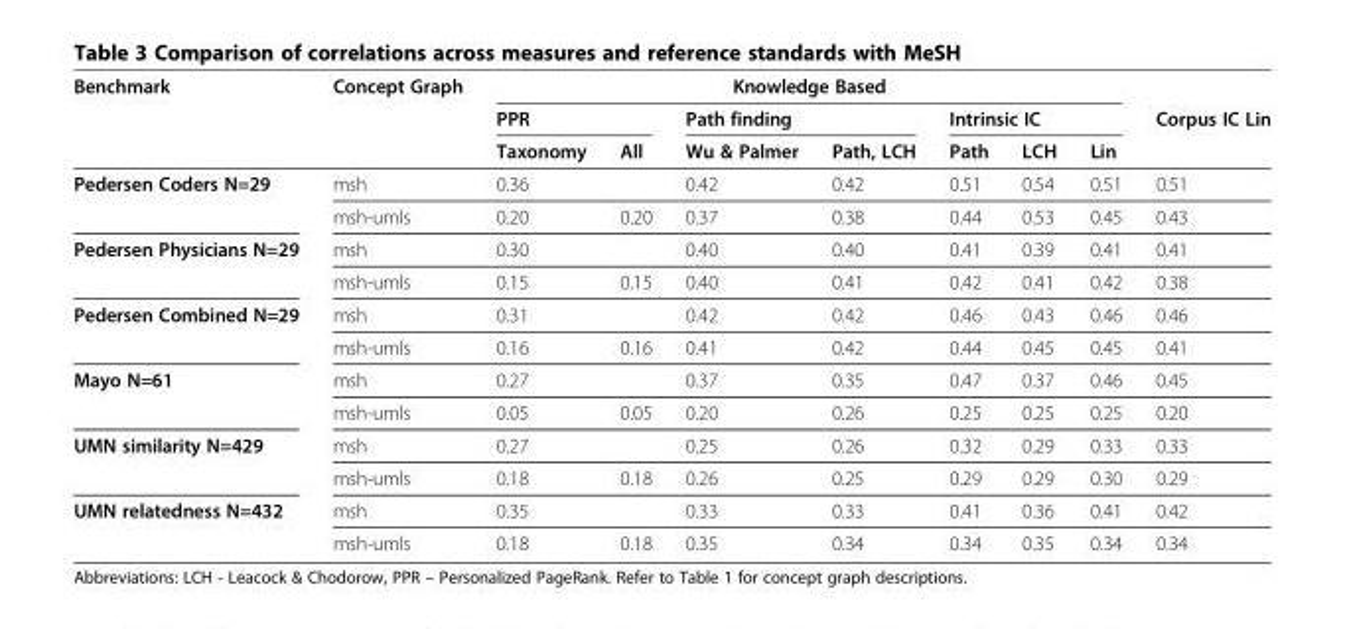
<table><thead><tr><td rowspan="3">Benchmark</td><td rowspan="3">Concept Graph</td><td colspan="7">Knowledge Based</td><td rowspan="3">Corpus IC Lin</td></tr><tr><td colspan="2">PPR</td><td colspan="2">Path finding</td><td colspan="3">Intrinsic IC</td></tr><tr><td>Taxonomy</td><td>All</td><td>Wu &amp; Palmer</td><td>Path, LCH</td><td>Path</td><td>LCH</td><td>Lin</td></tr></thead><tbody><tr><td rowspan="2">Pedersen Coders N=29</td><td>msh</td><td>0.36</td><td></td><td>0.42</td><td>0.42</td><td>0.51</td><td>0.54</td><td>0.51</td><td>0.51</td></tr><tr><td>msh-umls</td><td>0.20</td><td>0.20</td><td>0.37</td><td>0.38</td><td>0.44</td><td>0.53</td><td>0.45</td><td>0.43</td></tr><tr><td rowspan="2">Pedersen Physicians N=29</td><td>msh</td><td>0.30</td><td></td><td>0.40</td><td>0.40</td><td>0.41</td><td>0.39</td><td>0.41</td><td>0.41</td></tr><tr><td>msh-umls</td><td>0.15</td><td>0.15</td><td>0.40</td><td>0.41</td><td>0.42</td><td>0.41</td><td>0.42</td><td>0.38</td></tr><tr><td rowspan="2">Pedersen Combined N=29</td><td>msh</td><td>0.31</td><td></td><td>0.42</td><td>0.42</td><td>0.46</td><td>0.43</td><td>0.46</td><td>0.46</td></tr><tr><td>msh-umls</td><td>0.16</td><td>0.16</td><td>0.41</td><td>0.42</td><td>0.44</td><td>0.45</td><td>0.45</td><td>0.41</td></tr><tr><td rowspan="2">Mayo N=61</td><td>msh</td><td>0.27</td><td></td><td>0.37</td><td>0.35</td><td>0.47</td><td>0.37</td><td>0.46</td><td>0.45</td></tr><tr><td>msh-umls</td><td>0.05</td><td>0.05</td><td>0.20</td><td>0.26</td><td>0.25</td><td>0.25</td><td>0.25</td><td>0.20</td></tr><tr><td rowspan="2">UMN similarity N=429</td><td>msh</td><td>0.27</td><td></td><td>0.25</td><td>0.26</td><td>0.32</td><td>0.29</td><td>0.33</td><td>0.33</td></tr><tr><td>msh-umls</td><td>0.18</td><td>0.18</td><td>0.26</td><td>0.25</td><td>0.29</td><td>0.29</td><td>0.30</td><td>0.29</td></tr><tr><td rowspan="2">UMN relatedness N=432</td><td>msh</td><td>0.35</td><td></td><td>0.33</td><td>0.33</td><td>0.41</td><td>0.36</td><td>0.41</td><td>0.42</td></tr><tr><td>msh-umls</td><td>0.18</td><td>0.18</td><td>0.35</td><td>0.34</td><td>0.34</td><td>0.35</td><td>0.34</td><td>0.34</td></tr></tbody></table>